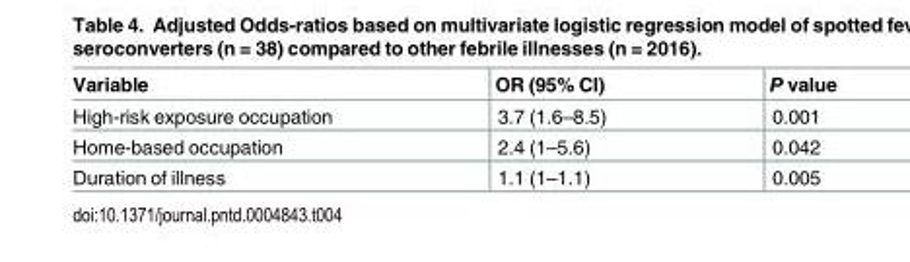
<table><thead><tr><td>Variable</td><td>OR (95% CI)</td><td>P value</td></tr></thead><tbody><tr><td>High-risk exposure occupation</td><td>3.7 (1.6–8.5)</td><td>0.001</td></tr><tr><td>Home-based occupation</td><td>2.4 (1–5.6)</td><td>0.042</td></tr><tr><td>Duration of illness</td><td>1.1 (1–1.1)</td><td>0.005</td></tr></tbody></table>